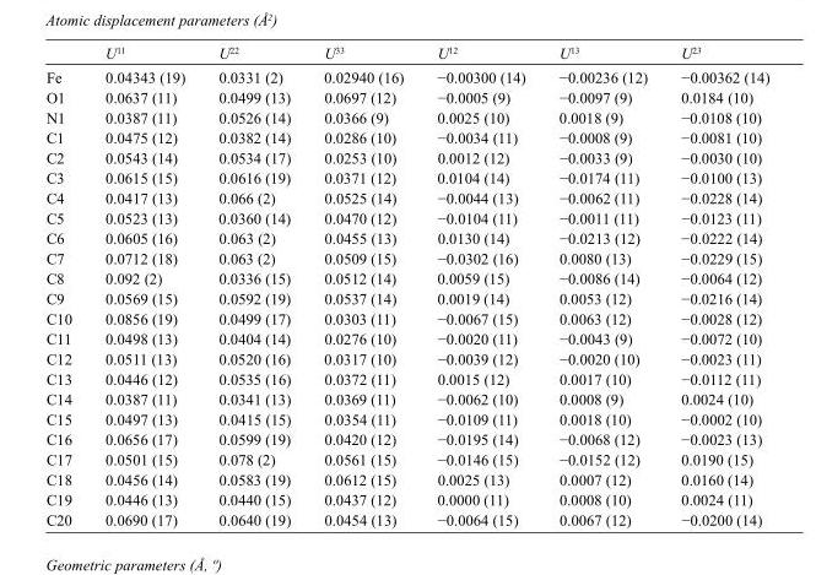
<table><thead><tr><td></td><td>U<sup>11</sup></td><td>U<sup>22</sup></td><td>U<sup>33</sup></td><td>U<sup>12</sup></td><td>U<sup>13</sup></td><td>U<sup>23</sup></td></tr></thead><tbody><tr><td>Fe</td><td>0.04343 (19)</td><td>0.0331 (2)</td><td>0.02940 (16)</td><td>−0.00300 (14)</td><td>−0.00236 (12)</td><td>−0.00362 (14)</td></tr><tr><td>O1</td><td>0.0637 (11)</td><td>0.0499 (13)</td><td>0.0697 (12)</td><td>−0.0005 (9)</td><td>−0.0097 (9)</td><td>0.0184 (10)</td></tr><tr><td>N1</td><td>0.0387 (11)</td><td>0.0526 (14)</td><td>0.0366 (9)</td><td>0.0025 (10)</td><td>0.0018 (9)</td><td>−0.0108 (10)</td></tr><tr><td>C1</td><td>0.0475 (12)</td><td>0.0382 (14)</td><td>0.0286 (10)</td><td>−0.0034 (11)</td><td>−0.0008 (9)</td><td>−0.0081 (10)</td></tr><tr><td>C2</td><td>0.0543 (14)</td><td>0.0534 (17)</td><td>0.0253 (10)</td><td>0.0012 (12)</td><td>−0.0033 (9)</td><td>−0.0030 (10)</td></tr><tr><td>C3</td><td>0.0615 (15)</td><td>0.0616 (19)</td><td>0.0371 (12)</td><td>0.0104 (14)</td><td>−0.0174 (11)</td><td>−0.0100 (13)</td></tr><tr><td>C4</td><td>0.0417 (13)</td><td>0.066 (2)</td><td>0.0525 (14)</td><td>−0.0044 (13)</td><td>−0.0062 (11)</td><td>−0.0228 (14)</td></tr><tr><td>C5</td><td>0.0523 (13)</td><td>0.0360 (14)</td><td>0.0470 (12)</td><td>−0.0104 (11)</td><td>−0.0011 (11)</td><td>−0.0123 (11)</td></tr><tr><td>C6</td><td>0.0605 (16)</td><td>0.063 (2)</td><td>0.0455 (13)</td><td>0.0130 (14)</td><td>−0.0213 (12)</td><td>−0.0222 (14)</td></tr><tr><td>C7</td><td>0.0712 (18)</td><td>0.063 (2)</td><td>0.0509 (15)</td><td>−0.0302 (16)</td><td>0.0080 (13)</td><td>−0.0229 (15)</td></tr><tr><td>C8</td><td>0.092 (2)</td><td>0.0336 (15)</td><td>0.0512 (14)</td><td>0.0059 (15)</td><td>−0.0086 (14)</td><td>−0.0064 (12)</td></tr><tr><td>C9</td><td>0.0569 (15)</td><td>0.0592 (19)</td><td>0.0537 (14)</td><td>0.0019 (14)</td><td>0.0053 (12)</td><td>−0.0216 (14)</td></tr><tr><td>C10</td><td>0.0856 (19)</td><td>0.0499 (17)</td><td>0.0303 (11)</td><td>−0.0067 (15)</td><td>0.0063 (12)</td><td>−0.0028 (12)</td></tr><tr><td>C11</td><td>0.0498 (13)</td><td>0.0404 (14)</td><td>0.0276 (10)</td><td>−0.0020 (11)</td><td>−0.0043 (9)</td><td>−0.0072 (10)</td></tr><tr><td>C12</td><td>0.0511 (13)</td><td>0.0520 (16)</td><td>0.0317 (10)</td><td>−0.0039 (12)</td><td>−0.0020 (10)</td><td>−0.0023 (11)</td></tr><tr><td>C13</td><td>0.0446 (12)</td><td>0.0535 (16)</td><td>0.0372 (11)</td><td>0.0015 (12)</td><td>0.0017 (10)</td><td>−0.0112 (11)</td></tr><tr><td>C14</td><td>0.0387 (11)</td><td>0.0341 (13)</td><td>0.0369 (11)</td><td>−0.0062 (10)</td><td>0.0008 (9)</td><td>0.0024 (10)</td></tr><tr><td>C15</td><td>0.0497 (13)</td><td>0.0415 (15)</td><td>0.0354 (11)</td><td>−0.0109 (11)</td><td>0.0018 (10)</td><td>−0.0002 (10)</td></tr><tr><td>C16</td><td>0.0656 (17)</td><td>0.0599 (19)</td><td>0.0420 (12)</td><td>−0.0195 (14)</td><td>−0.0068 (12)</td><td>−0.0023 (13)</td></tr><tr><td>C17</td><td>0.0501 (15)</td><td>0.078 (2)</td><td>0.0561 (15)</td><td>−0.0146 (15)</td><td>−0.0152 (12)</td><td>0.0190 (15)</td></tr><tr><td>C18</td><td>0.0456 (14)</td><td>0.0583 (19)</td><td>0.0612 (15)</td><td>0.0025 (13)</td><td>0.0007 (12)</td><td>0.0160 (14)</td></tr><tr><td>C19</td><td>0.0446 (13)</td><td>0.0440 (15)</td><td>0.0437 (12)</td><td>0.0000 (11)</td><td>0.0008 (10)</td><td>0.0024 (11)</td></tr><tr><td>C20</td><td>0.0690 (17)</td><td>0.0640 (19)</td><td>0.0454 (13)</td><td>−0.0064 (15)</td><td>0.0067 (12)</td><td>−0.0200 (14)</td></tr></tbody></table>